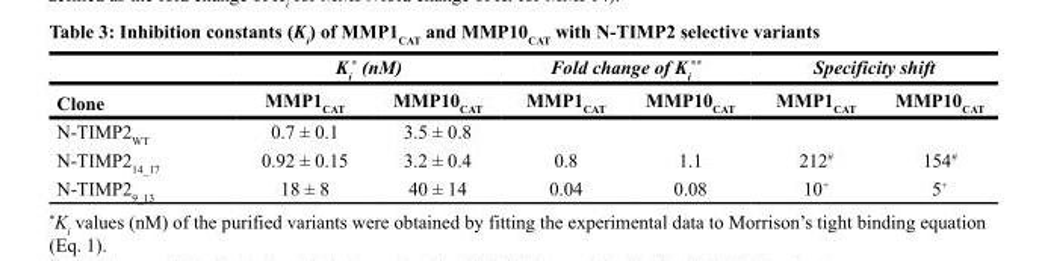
<table><thead><tr><td rowspan="2">Clone</td><td colspan="2">K<sub>i</sub> * (nM)</td><td colspan="2">Fold change of K<sub>i</sub> **</td><td colspan="2">Specificity shift</td></tr><tr><td>MMP1<sub>CAT</sub></td><td>MMP10<sub>CAT</sub></td><td>MMP1<sub>CAT</sub></td><td>MMP10<sub>CAT</sub></td><td>MMP1<sub>CAT</sub></td><td>MMP10<sub>CAT</sub></td></tr></thead><tbody><tr><td>N-TIMP2<sub>WT</sub></td><td>0.7 ± 0.1</td><td>3.5 ± 0.8</td><td></td><td></td><td></td><td></td></tr><tr><td>N-TIMP2<sub>14_17</sub></td><td>0.92 ± 0.15</td><td>3.2 ± 0.4</td><td>0.8</td><td>1.1</td><td>212<sup>#</sup></td><td>154<sup>#</sup></td></tr><tr><td>N-TIMP2<sub>9_13</sub></td><td>18 ± 8</td><td>40 ± 14</td><td>0.04</td><td>0.08</td><td>10<sup>+</sup></td><td>5<sup>+</sup></td></tr></tbody></table>